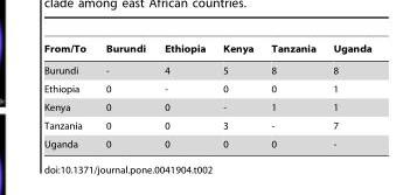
<table><thead><tr><td>From/To</td><td>Burundi</td><td>Ethiopia</td><td>Kenya</td><td>Tanzania</td><td>Uganda</td></tr></thead><tbody><tr><td>Burundi</td><td>-</td><td>4</td><td>5</td><td>8</td><td>8</td></tr><tr><td>Ethiopia</td><td>0</td><td>-</td><td>0</td><td>0</td><td>1</td></tr><tr><td>Kenya</td><td>0</td><td>0</td><td>-</td><td>1</td><td>1</td></tr><tr><td>Tanzania</td><td>0</td><td>0</td><td>3</td><td>-</td><td>7</td></tr><tr><td>Uganda</td><td>0</td><td>0</td><td>0</td><td>0</td><td>-</td></tr></tbody></table>